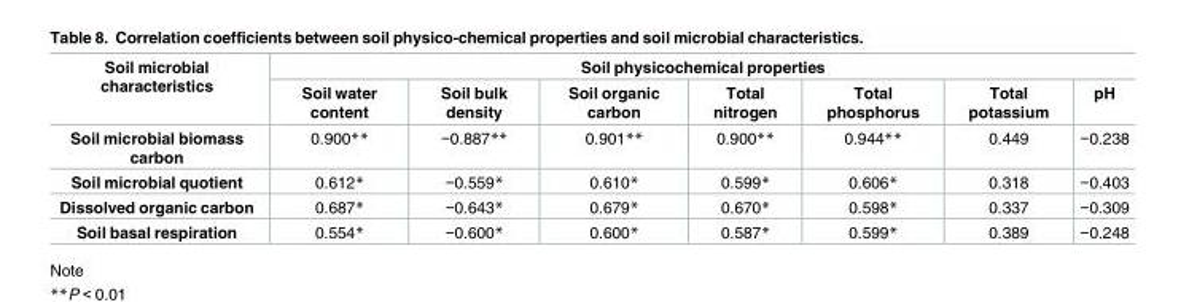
<table><thead><tr><td rowspan="2">Soil microbial characteristics</td><td colspan="7">Soil physicochemical properties</td></tr><tr><td>Soil water content</td><td>Soil bulk density</td><td>Soil organic carbon</td><td>Total nitrogen</td><td>Total phosphorus</td><td>Total potassium</td><td>pH</td></tr></thead><tbody><tr><td>Soil microbial biomass carbon</td><td>0.900**</td><td>−0.887**</td><td>0.901**</td><td>0.900**</td><td>0.944**</td><td>0.449</td><td>−0.238</td></tr><tr><td>Soil microbial quotient</td><td>0.612*</td><td>−0.559*</td><td>0.610*</td><td>0.599*</td><td>0.606*</td><td>0.318</td><td>−0.403</td></tr><tr><td>Dissolved organic carbon</td><td>0.687*</td><td>−0.643*</td><td>0.679*</td><td>0.670*</td><td>0.598*</td><td>0.337</td><td>−0.309</td></tr><tr><td>Soil basal respiration</td><td>0.554*</td><td>−0.600*</td><td>0.600*</td><td>0.587*</td><td>0.599*</td><td>0.389</td><td>−0.248</td></tr></tbody></table>